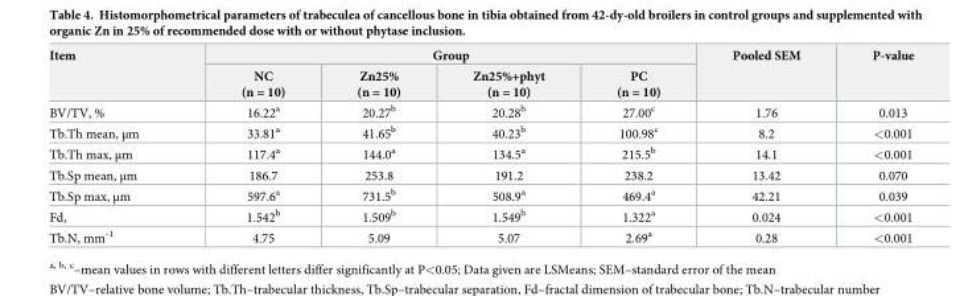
<table><thead><tr><td rowspan="2">Item</td><td colspan="4">Group</td><td rowspan="2">Pooled SEM</td><td rowspan="2">P-value</td></tr><tr><td>NC (n = 10)</td><td>Zn25% (n = 10)</td><td>Zn25%+phyt (n = 10)</td><td>PC (n = 10)</td></tr></thead><tbody><tr><td>BV/TV, %</td><td>16.22<sup>a</sup></td><td>20.27<sup>b</sup></td><td>20.28<sup>b</sup></td><td>27.00<sup>c</sup></td><td>1.76</td><td>0.013</td></tr><tr><td>Tb.Th mean, μm</td><td>33.81<sup>a</sup></td><td>41.65<sup>b</sup></td><td>40.23<sup>b</sup></td><td>100.98<sup>c</sup></td><td>8.2</td><td>&lt;0.001</td></tr><tr><td>Tb.Th max, μm</td><td>117.4<sup>a</sup></td><td>144.0<sup>a</sup></td><td>134.5<sup>a</sup></td><td>215.5<sup>b</sup></td><td>14.1</td><td>&lt;0.001</td></tr><tr><td>Tb.Sp mean, μm</td><td>186.7</td><td>253.8</td><td>191.2</td><td>238.2</td><td>13.42</td><td>0.070</td></tr><tr><td>Tb.Sp max, μm</td><td>597.6<sup>a</sup></td><td>731.5<sup>b</sup></td><td>508.9<sup>a</sup></td><td>469.4<sup>a</sup></td><td>42.21</td><td>0.039</td></tr><tr><td>Fd,</td><td>1.542<sup>b</sup></td><td>1.509<sup>b</sup></td><td>1.549<sup>b</sup></td><td>1.322<sup>a</sup></td><td>0.024</td><td>&lt;0.001</td></tr><tr><td>Tb.N, mm<sup>-1</sup></td><td>4.75</td><td>5.09</td><td>5.07</td><td>2.69<sup>a</sup></td><td>0.28</td><td>&lt;0.001</td></tr></tbody></table>